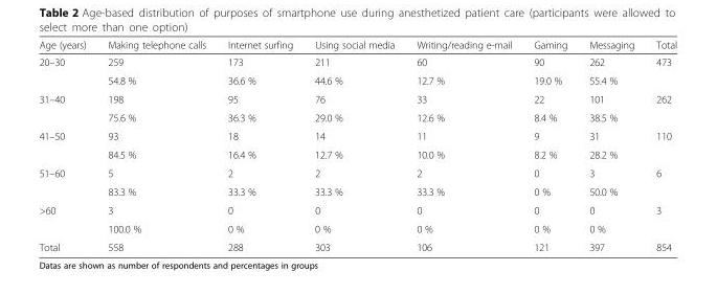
<table><thead><tr><td>Age (years)</td><td>Making telephone calls</td><td>Internet surfing</td><td>Using social media</td><td>Writing/reading e-mail</td><td>Gaming</td><td>Messaging</td><td>Total</td></tr></thead><tbody><tr><td rowspan="2">20–30</td><td>259</td><td>173</td><td>211</td><td>60</td><td>90</td><td>262</td><td>473</td></tr><tr><td>54.8 %</td><td>36.6 %</td><td>44.6 %</td><td>12.7 %</td><td>19.0 %</td><td>55.4 %</td><td></td></tr><tr><td rowspan="2">31–40</td><td>198</td><td>95</td><td>76</td><td>33</td><td>22</td><td>101</td><td>262</td></tr><tr><td>75.6 %</td><td>36.3 %</td><td>29.0 %</td><td>12.6 %</td><td>8.4 %</td><td>38.5 %</td><td></td></tr><tr><td rowspan="2">41–50</td><td>93</td><td>18</td><td>14</td><td>11</td><td>9</td><td>31</td><td>110</td></tr><tr><td>84.5 %</td><td>16.4 %</td><td>12.7 %</td><td>10.0 %</td><td>8.2 %</td><td>28.2 %</td><td></td></tr><tr><td rowspan="2">51–60</td><td>5</td><td>2</td><td>2</td><td>2</td><td>0</td><td>3</td><td>6</td></tr><tr><td>83.3 %</td><td>33.3 %</td><td>33.3 %</td><td>33.3 %</td><td>0 %</td><td>50.0 %</td><td></td></tr><tr><td rowspan="2">&gt;60</td><td>3</td><td>0</td><td>0</td><td>0</td><td>0</td><td>0</td><td>3</td></tr><tr><td>100.0 %</td><td>0 %</td><td>0 %</td><td>0 %</td><td>0 %</td><td>0 %</td><td></td></tr><tr><td>Total</td><td>558</td><td>288</td><td>303</td><td>106</td><td>121</td><td>397</td><td>854</td></tr></tbody></table>